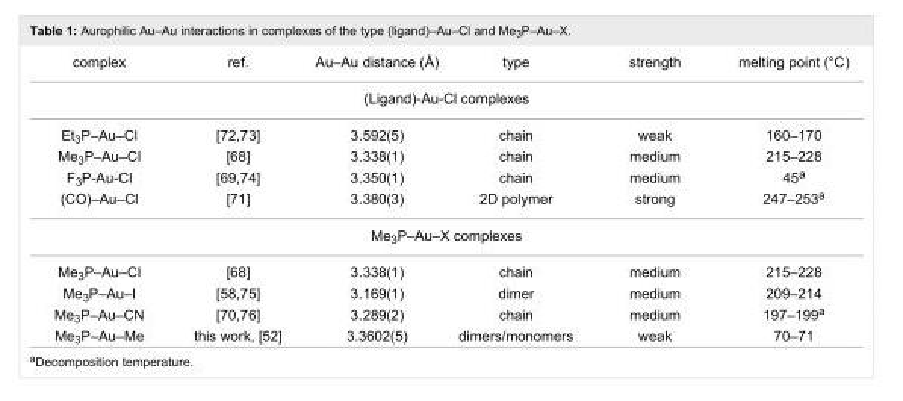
<table><tbody><tr><td>complex</td><td>ref.</td><td>Au–Au distance (Å)</td><td>type</td><td>strength</td><td>melting point (°C)</td></tr><tr><td colspan="6">(Ligand)-Au-Cl complexes</td></tr><tr><td>Et<sub>3</sub>P–Au–Cl</td><td>[72–73]</td><td>3.592(5)</td><td>chain</td><td>weak</td><td>160–170</td></tr><tr><td>Me<sub>3</sub>P–Au–Cl</td><td>[68]</td><td>3.338(1)</td><td>chain</td><td>medium</td><td>215–228</td></tr><tr><td>F<sub>3</sub>P-Au-Cl</td><td>[69,74]</td><td>3.350(1)</td><td>chain</td><td>medium</td><td>45<sup>a</sup></td></tr><tr><td>(CO)–Au–Cl</td><td>[71]</td><td>3.380(3)</td><td>2D polymer</td><td>strong</td><td>247–253<sup>a</sup></td></tr><tr><td colspan="6">Me<sub>3</sub>P–Au–X complexes</td></tr><tr><td>Me<sub>3</sub>P–Au–Cl</td><td>[68]</td><td>3.338(1)</td><td>chain</td><td>medium</td><td>215–228</td></tr><tr><td>Me<sub>3</sub>P–Au–I</td><td>[58,75]</td><td>3.169(1)</td><td>dimer</td><td>medium</td><td>209–214</td></tr><tr><td>Me<sub>3</sub>P–Au–CN</td><td>[70,76]</td><td>3.289(2)</td><td>chain</td><td>medium</td><td>197–199<sup>a</sup></td></tr><tr><td>Me<sub>3</sub>P–Au–Me</td><td>this work, [52]</td><td>3.3602(5)</td><td>dimers/monomers</td><td>weak</td><td>70–71</td></tr></tbody></table>